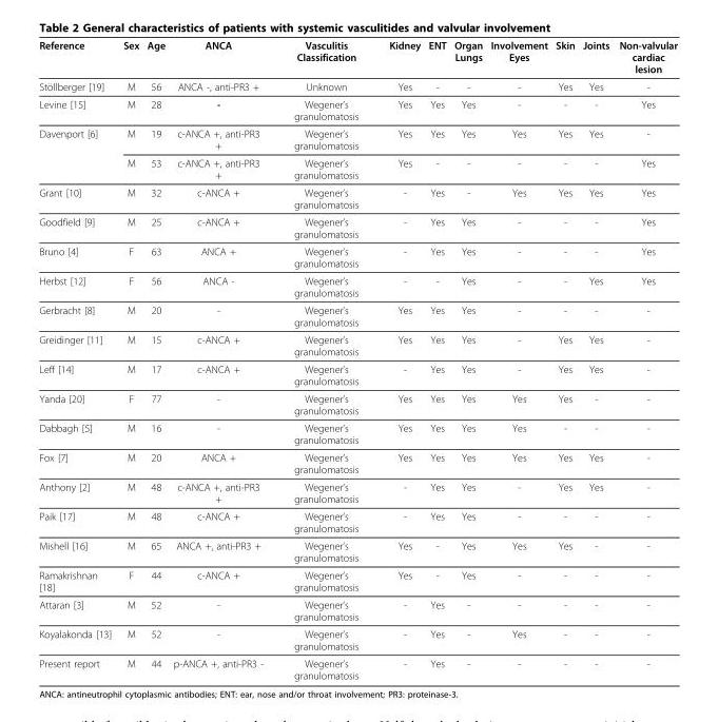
<table><thead><tr><td>Reference</td><td>Sex</td><td>Age</td><td>ANCA</td><td>Vasculitis Classification</td><td>Kidney</td><td>ENT</td><td>Organ Lungs</td><td>Involvement Eyes</td><td>Skin</td><td>Joints</td><td>Non-valvular cardiac lesion</td></tr></thead><tbody><tr><td>Stöllberger [19]</td><td>M</td><td>56</td><td>ANCA -, anti-PR3 +</td><td>Unknown</td><td>Yes</td><td>-</td><td>-</td><td>-</td><td>Yes</td><td>Yes</td><td>-</td></tr><tr><td>Levine [15]</td><td>M</td><td>28</td><td>-</td><td>Wegener’s granulomatosis</td><td>Yes</td><td>Yes</td><td>Yes</td><td>-</td><td>-</td><td>-</td><td>Yes</td></tr><tr><td rowspan="2">Davenport [6]</td><td>M</td><td>19</td><td>c-ANCA +, anti-PR3 +</td><td>Wegener’s granulomatosis</td><td>Yes</td><td>Yes</td><td>Yes</td><td>Yes</td><td>Yes</td><td>Yes</td><td>-</td></tr><tr><td>M</td><td>53</td><td>c-ANCA +, anti-PR3 +</td><td>Wegener’s granulomatosis</td><td>Yes</td><td>-</td><td>-</td><td>-</td><td>-</td><td>-</td><td>Yes</td></tr><tr><td>Grant [10]</td><td>M</td><td>32</td><td>c-ANCA +</td><td>Wegener’s granulomatosis</td><td>-</td><td>Yes</td><td>-</td><td>Yes</td><td>Yes</td><td>Yes</td><td>Yes</td></tr><tr><td>Goodfield [9]</td><td>M</td><td>25</td><td>c-ANCA +</td><td>Wegener’s granulomatosis</td><td>-</td><td>Yes</td><td>Yes</td><td>-</td><td>-</td><td>-</td><td>Yes</td></tr><tr><td>Bruno [4]</td><td>F</td><td>63</td><td>ANCA +</td><td>Wegener’s granulomatosis</td><td>-</td><td>Yes</td><td>Yes</td><td>-</td><td>-</td><td>-</td><td>Yes</td></tr><tr><td>Herbst [12]</td><td>F</td><td>56</td><td>ANCA -</td><td>Wegener’s granulomatosis</td><td>-</td><td>-</td><td>Yes</td><td>-</td><td>-</td><td>Yes</td><td>Yes</td></tr><tr><td>Gerbracht [8]</td><td>M</td><td>20</td><td>-</td><td>Wegener’s granulomatosis</td><td>Yes</td><td>Yes</td><td>Yes</td><td>-</td><td>-</td><td>-</td><td>-</td></tr><tr><td>Greidinger [11]</td><td>M</td><td>15</td><td>c-ANCA +</td><td>Wegener’s granulomatosis</td><td>Yes</td><td>Yes</td><td>Yes</td><td>-</td><td>Yes</td><td>Yes</td><td>-</td></tr><tr><td>Leff [14]</td><td>M</td><td>17</td><td>c-ANCA +</td><td>Wegener’s granulomatosis</td><td>-</td><td>Yes</td><td>Yes</td><td>-</td><td>Yes</td><td>Yes</td><td>-</td></tr><tr><td>Yanda [20]</td><td>F</td><td>77</td><td>-</td><td>Wegener’s granulomatosis</td><td>Yes</td><td>Yes</td><td>Yes</td><td>Yes</td><td>Yes</td><td>-</td><td>-</td></tr><tr><td>Dabbagh [5]</td><td>M</td><td>16</td><td>-</td><td>Wegener’s granulomatosis</td><td>Yes</td><td>Yes</td><td>Yes</td><td>Yes</td><td>-</td><td>-</td><td>-</td></tr><tr><td>Fox [7]</td><td>M</td><td>20</td><td>ANCA +</td><td>Wegener’s granulomatosis</td><td>Yes</td><td>Yes</td><td>Yes</td><td>Yes</td><td>Yes</td><td>Yes</td><td>-</td></tr><tr><td>Anthony [2]</td><td>M</td><td>48</td><td>c-ANCA +, anti-PR3 +</td><td>Wegener’s granulomatosis</td><td>-</td><td>Yes</td><td>Yes</td><td>-</td><td>Yes</td><td>Yes</td><td>-</td></tr><tr><td>Paik [17]</td><td>M</td><td>48</td><td>c-ANCA +</td><td>Wegener’s granulomatosis</td><td>-</td><td>Yes</td><td>Yes</td><td>-</td><td>-</td><td>-</td><td>-</td></tr><tr><td>Mishell [16]</td><td>M</td><td>65</td><td>ANCA +, anti-PR3 +</td><td>Wegener’s granulomatosis</td><td>Yes</td><td>-</td><td>Yes</td><td>Yes</td><td>Yes</td><td>-</td><td>-</td></tr><tr><td>Ramakrishnan [18]</td><td>F</td><td>44</td><td>c-ANCA +</td><td>Wegener’s granulomatosis</td><td>Yes</td><td>-</td><td>Yes</td><td>-</td><td>-</td><td>-</td><td>-</td></tr><tr><td>Attaran [3]</td><td>M</td><td>52</td><td>-</td><td>Wegener’s granulomatosis</td><td>-</td><td>Yes</td><td>-</td><td>-</td><td>-</td><td>-</td><td>-</td></tr><tr><td>Koyalakonda [13]</td><td>M</td><td>52</td><td>-</td><td>Wegener’s granulomatosis</td><td>-</td><td>Yes</td><td>-</td><td>Yes</td><td>-</td><td>-</td><td>-</td></tr><tr><td>Present report</td><td>M</td><td>44</td><td>p-ANCA +, anti-PR3 -</td><td>Wegener’s granulomatosis</td><td>-</td><td>Yes</td><td>-</td><td>-</td><td>-</td><td>-</td><td>-</td></tr></tbody></table>